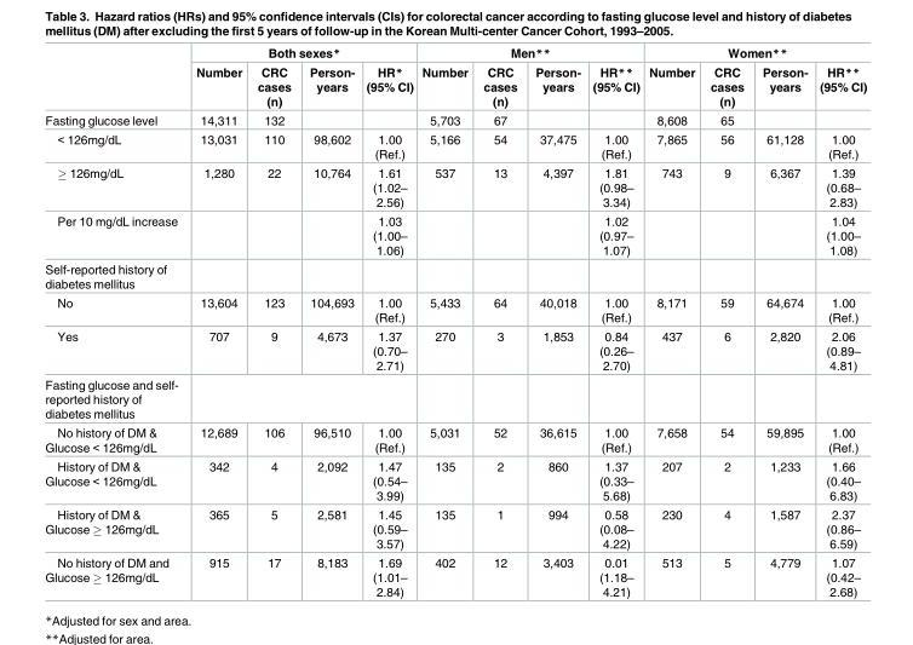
<table><thead><tr><td rowspan="2"></td><td colspan="4">Both sexes*</td><td colspan="4">Men**</td><td colspan="4">Women**</td></tr><tr><td>Number</td><td>CRC cases (n)</td><td>Person- years</td><td>HR* (95% CI)</td><td>Number</td><td>CRC cases (n)</td><td>Person- years</td><td>HR** (95% CI)</td><td>Number</td><td>CRC cases (n)</td><td>Person- years</td><td>HR** (95% CI)</td></tr></thead><tbody><tr><td>Fasting glucose level</td><td>14,311</td><td>132</td><td></td><td></td><td>5,703</td><td>67</td><td></td><td></td><td>8,608</td><td>65</td><td></td><td></td></tr><tr><td>&lt; 126mg/dL</td><td>13,031</td><td>110</td><td>98,602</td><td>1.00 (Ref.)</td><td>5,166</td><td>54</td><td>37,475</td><td>1.00 (Ref.)</td><td>7,865</td><td>56</td><td>61,128</td><td>1.00 (Ref.)</td></tr><tr><td>≥ 126mg/dL</td><td>1,280</td><td>22</td><td>10,764</td><td>1.61 (1.02– 2.56)</td><td>537</td><td>13</td><td>4,397</td><td>1.81 (0.98– 3.34)</td><td>743</td><td>9</td><td>6,367</td><td>1.39 (0.68– 2.83)</td></tr><tr><td>Per 10 mg/dL increase</td><td></td><td></td><td></td><td>1.03 (1.00– 1.06)</td><td></td><td></td><td></td><td>1.02 (0.97– 1.07)</td><td></td><td></td><td></td><td>1.04 (1.00– 1.08)</td></tr><tr><td colspan="13">Self-reported history of diabetes mellitus</td></tr><tr><td>No</td><td>13,604</td><td>123</td><td>104,693</td><td>1.00 (Ref.)</td><td>5,433</td><td>64</td><td>40,018</td><td>1.00 (Ref.)</td><td>8,171</td><td>59</td><td>64,674</td><td>1.00 (Ref.)</td></tr><tr><td>Yes</td><td>707</td><td>9</td><td>4,673</td><td>1.37 (0.70– 2.71)</td><td>270</td><td>3</td><td>1,853</td><td>0.84 (0.26– 2.70)</td><td>437</td><td>6</td><td>2,820</td><td>2.06 (0.89– 4.81)</td></tr><tr><td colspan="13">Fasting glucose and self- reported history of diabetes mellitus</td></tr><tr><td>No history of DM &amp; Glucose &lt; 126mg/dL</td><td>12,689</td><td>106</td><td>96,510</td><td>1.00 (Ref.)</td><td>5,031</td><td>52</td><td>36,615</td><td>1.00 (Ref.)</td><td>7,658</td><td>54</td><td>59,895</td><td>1.00 (Ref.)</td></tr><tr><td>History of DM &amp; Glucose &lt; 126mg/dL</td><td>342</td><td>4</td><td>2,092</td><td>1.47 (0.54– 3.99)</td><td>135</td><td>2</td><td>860</td><td>1.37 (0.33– 5.68)</td><td>207</td><td>2</td><td>1,233</td><td>1.66 (0.40– 6.83)</td></tr><tr><td>History of DM &amp; Glucose ≥ 126mg/dL</td><td>365</td><td>5</td><td>2,581</td><td>1.45 (0.59– 3.57)</td><td>135</td><td>1</td><td>994</td><td>0.58 (0.08– 4.22)</td><td>230</td><td>4</td><td>1,587</td><td>2.37 (0.86– 6.59)</td></tr><tr><td>No history of DM and Glucose ≥ 126mg/dL</td><td>915</td><td>17</td><td>8,183</td><td>1.69 (1.01– 2.84)</td><td>402</td><td>12</td><td>3,403</td><td>0.01 (1.18– 4.21)</td><td>513</td><td>5</td><td>4,779</td><td>1.07 (0.42– 2.68)</td></tr></tbody></table>